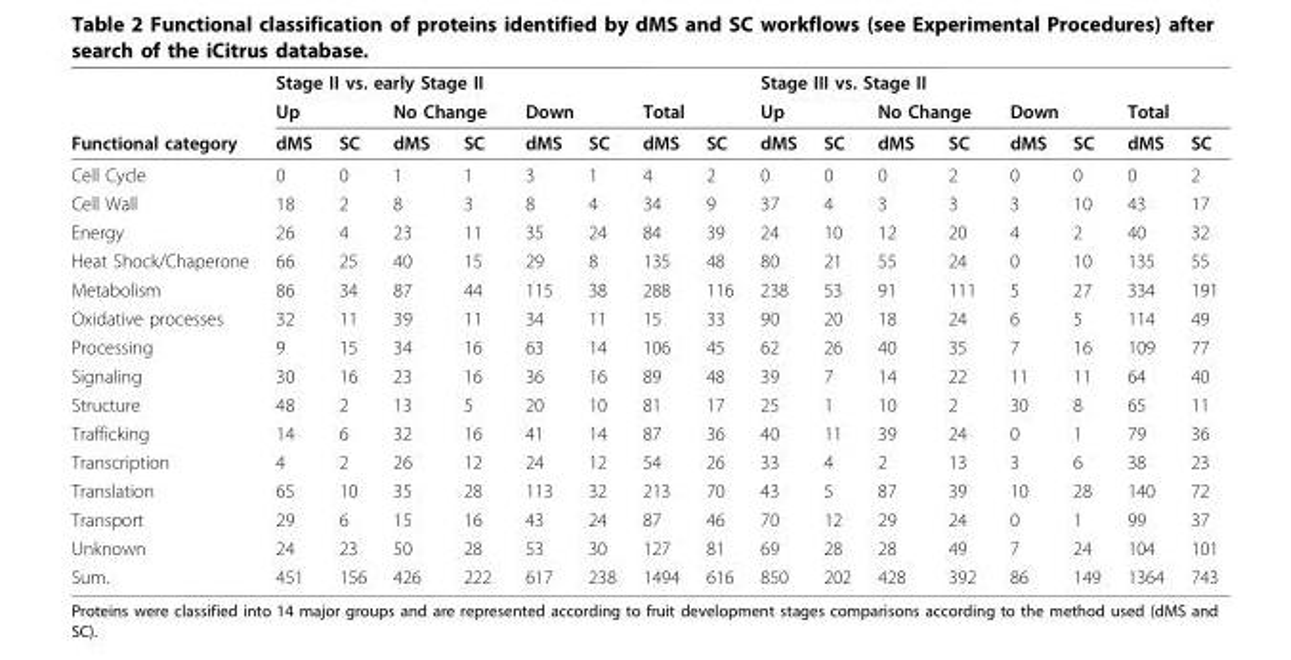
<table><thead><tr><td rowspan="3">Functional category</td><td colspan="8">Stage II vs. early Stage II</td><td colspan="8">Stage III vs. Stage II</td></tr><tr><td colspan="2">Up</td><td colspan="2">No Change</td><td colspan="2">Down</td><td colspan="2">Total</td><td colspan="2">Up</td><td colspan="2">No Change</td><td colspan="2">Down</td><td colspan="2">Total</td></tr><tr><td>dMS</td><td>SC</td><td>dMS</td><td>SC</td><td>dMS</td><td>SC</td><td>dMS</td><td>SC</td><td>dMS</td><td>SC</td><td>dMS</td><td>SC</td><td>dMS</td><td>SC</td><td>dMS</td><td>SC</td></tr></thead><tbody><tr><td>Cell Cycle</td><td>0</td><td>0</td><td>1</td><td>1</td><td>3</td><td>1</td><td>4</td><td>2</td><td>0</td><td>0</td><td>0</td><td>2</td><td>0</td><td>0</td><td>0</td><td>2</td></tr><tr><td>Cell Wall</td><td>18</td><td>2</td><td>8</td><td>3</td><td>8</td><td>4</td><td>34</td><td>9</td><td>37</td><td>4</td><td>3</td><td>3</td><td>3</td><td>10</td><td>43</td><td>17</td></tr><tr><td>Energy</td><td>26</td><td>4</td><td>23</td><td>11</td><td>35</td><td>24</td><td>84</td><td>39</td><td>24</td><td>10</td><td>12</td><td>20</td><td>4</td><td>2</td><td>40</td><td>32</td></tr><tr><td>Heat Shock/Chaperone</td><td>66</td><td>25</td><td>40</td><td>15</td><td>29</td><td>8</td><td>135</td><td>48</td><td>80</td><td>21</td><td>55</td><td>24</td><td>0</td><td>10</td><td>135</td><td>55</td></tr><tr><td>Metabolism</td><td>86</td><td>34</td><td>87</td><td>44</td><td>115</td><td>38</td><td>288</td><td>116</td><td>238</td><td>53</td><td>91</td><td>111</td><td>5</td><td>27</td><td>334</td><td>191</td></tr><tr><td>Oxidative processes</td><td>32</td><td>11</td><td>39</td><td>11</td><td>34</td><td>11</td><td>15</td><td>33</td><td>90</td><td>20</td><td>18</td><td>24</td><td>6</td><td>5</td><td>114</td><td>49</td></tr><tr><td>Processing</td><td>9</td><td>15</td><td>34</td><td>16</td><td>63</td><td>14</td><td>106</td><td>45</td><td>62</td><td>26</td><td>40</td><td>35</td><td>7</td><td>16</td><td>109</td><td>77</td></tr><tr><td>Signaling</td><td>30</td><td>16</td><td>23</td><td>16</td><td>36</td><td>16</td><td>89</td><td>48</td><td>39</td><td>7</td><td>14</td><td>22</td><td>11</td><td>11</td><td>64</td><td>40</td></tr><tr><td>Structure</td><td>48</td><td>2</td><td>13</td><td>5</td><td>20</td><td>10</td><td>81</td><td>17</td><td>25</td><td>1</td><td>10</td><td>2</td><td>30</td><td>8</td><td>65</td><td>11</td></tr><tr><td>Trafficking</td><td>14</td><td>6</td><td>32</td><td>16</td><td>41</td><td>14</td><td>87</td><td>36</td><td>40</td><td>11</td><td>39</td><td>24</td><td>0</td><td>1</td><td>79</td><td>36</td></tr><tr><td>Transcription</td><td>4</td><td>2</td><td>26</td><td>12</td><td>24</td><td>12</td><td>54</td><td>26</td><td>33</td><td>4</td><td>2</td><td>13</td><td>3</td><td>6</td><td>38</td><td>23</td></tr><tr><td>Translation</td><td>65</td><td>10</td><td>35</td><td>28</td><td>113</td><td>32</td><td>213</td><td>70</td><td>43</td><td>5</td><td>87</td><td>39</td><td>10</td><td>28</td><td>140</td><td>72</td></tr><tr><td>Transport</td><td>29</td><td>6</td><td>15</td><td>16</td><td>43</td><td>24</td><td>87</td><td>46</td><td>70</td><td>12</td><td>29</td><td>24</td><td>0</td><td>1</td><td>99</td><td>37</td></tr><tr><td>Unknown</td><td>24</td><td>23</td><td>50</td><td>28</td><td>53</td><td>30</td><td>127</td><td>81</td><td>69</td><td>28</td><td>28</td><td>49</td><td>7</td><td>24</td><td>104</td><td>101</td></tr><tr><td>Sum.</td><td>451</td><td>156</td><td>426</td><td>222</td><td>617</td><td>238</td><td>1494</td><td>616</td><td>850</td><td>202</td><td>428</td><td>392</td><td>86</td><td>149</td><td>1364</td><td>743</td></tr></tbody></table>